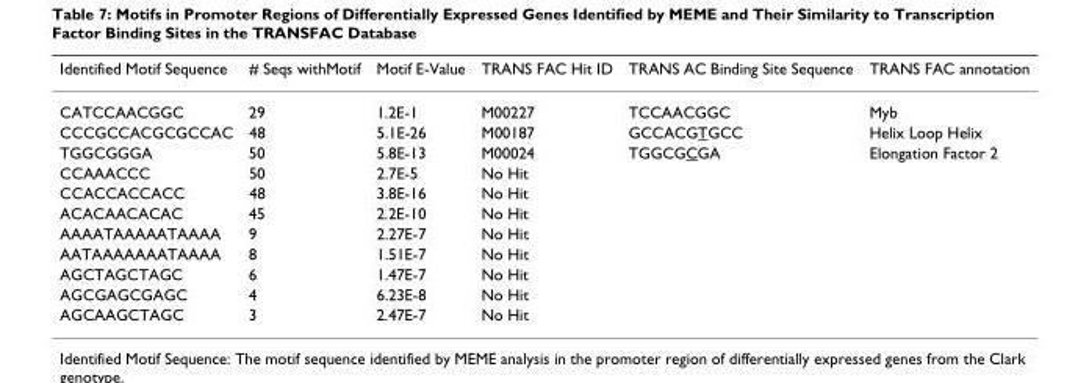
<table><thead><tr><td>Identified Motif Sequence</td><td># Seqs withMotif</td><td>Motif E-Value</td><td>TRANS FAC Hit ID</td><td>TRANS AC Binding Site Sequence</td><td>TRANS FAC annotation</td></tr></thead><tbody><tr><td>CATCCAACGGC</td><td>29</td><td>1.2E-1</td><td>M00227</td><td>TCCAACGGC</td><td>Myb</td></tr><tr><td>CCCGCCACGCGCCAC</td><td>48</td><td>5.1E-26</td><td>M00187</td><td>GCCACGTGCC</td><td>Helix Loop Helix</td></tr><tr><td>TGGCGGGA</td><td>50</td><td>5.8E-13</td><td>M00024</td><td>TGGCGCGA</td><td>Elongation Factor 2</td></tr><tr><td>CCAAACCC</td><td>50</td><td>2.7E-5</td><td>No Hit</td><td></td><td></td></tr><tr><td>CCACCACCACC</td><td>48</td><td>3.8E-16</td><td>No Hit</td><td></td><td></td></tr><tr><td>ACACAACACAC</td><td>45</td><td>2.2E-10</td><td>No Hit</td><td></td><td></td></tr><tr><td>AAAATAAAAATAAAA</td><td>9</td><td>2.27E-7</td><td>No Hit</td><td></td><td></td></tr><tr><td>AATAAAAAAATAAAA</td><td>8</td><td>1.51E-7</td><td>No Hit</td><td></td><td></td></tr><tr><td>AGCTAGCTAGC</td><td>6</td><td>1.47E-7</td><td>No Hit</td><td></td><td></td></tr><tr><td>AGCGAGCGAGC</td><td>4</td><td>6.23E-8</td><td>No Hit</td><td></td><td></td></tr><tr><td>AGCAAGCTAGC</td><td>3</td><td>2.47E-7</td><td>No Hit</td><td></td><td></td></tr></tbody></table>